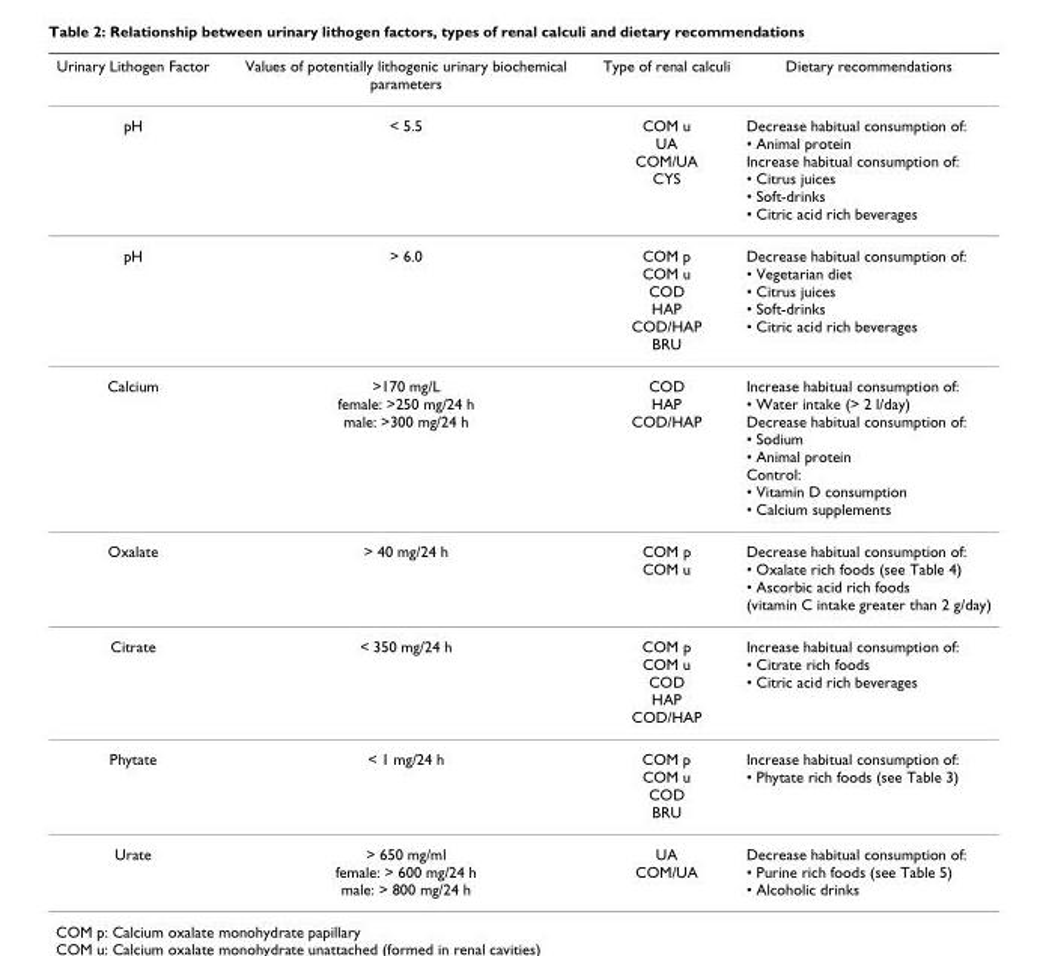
<table><thead><tr><td>Urinary Lithogen Factor</td><td>Values of potentially lithogenic urinary biochemical parameters</td><td>Type of renal calculi</td><td>Dietary recommendations</td></tr></thead><tbody><tr><td>pH</td><td>&lt; 5.5</td><td>COM u UA COM/UA CYS</td><td>Decrease habitual consumption of: • Animal protein Increase habitual consumption of: • Citrus juices • Soft-drinks • Citric acid rich beverages</td></tr><tr><td>pH</td><td>&gt; 6.0</td><td>COM p COM u COD HAP COD/HAP BRU</td><td>Decrease habitual consumption of: • Vegetarian diet • Citrus juices • Soft-drinks • Citric acid rich beverages</td></tr><tr><td>Calcium</td><td>&gt;170 mg/L female: &gt;250 mg/24 h male: &gt;300 mg/24 h</td><td>COD HAP COD/HAP</td><td>Increase habitual consumption of: • Water intake (&gt; 2 l/day) Decrease habitual consumption of: • Sodium • Animal protein Control: • Vitamin D consumption • Calcium supplements</td></tr><tr><td>Oxalate</td><td>&gt; 40 mg/24 h</td><td>COM p COM u</td><td>Decrease habitual consumption of: • Oxalate rich foods (see Table 4) • Ascorbic acid rich foods (vitamin C intake greater than 2 g/day)</td></tr><tr><td>Citrate</td><td>&lt; 350 mg/24 h</td><td>COM p COM u COD HAP COD/HAP</td><td>Increase habitual consumption of: • Citrate rich foods • Citric acid rich beverages</td></tr><tr><td>Phytate</td><td>&lt; 1 mg/24 h</td><td>COM p COM u COD BRU</td><td>Increase habitual consumption of: • Phytate rich foods (see Table 3)</td></tr><tr><td>Urate</td><td>&gt; 650 mg/ml female: &gt; 600 mg/24 h male: &gt; 800 mg/24 h</td><td>UA COM/UA</td><td>Decrease habitual consumption of: • Purine rich foods (see Table 5) • Alcoholic drinks</td></tr></tbody></table>